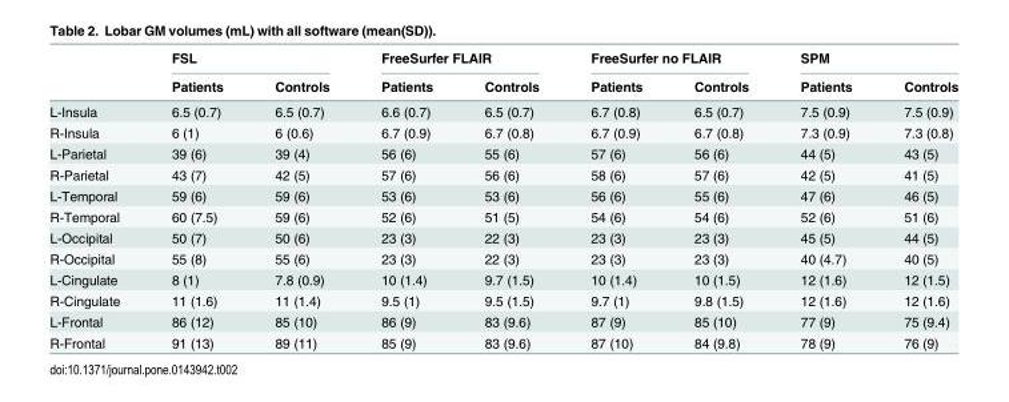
<table><thead><tr><td rowspan="2"></td><td colspan="2">FSL</td><td colspan="2">FreeSurfer FLAIR</td><td colspan="2">FreeSurfer no FLAIR</td><td colspan="2">SPM</td></tr><tr><td>Patients</td><td>Controls</td><td>Patients</td><td>Controls</td><td>Patients</td><td>Controls</td><td>Patients</td><td>Controls</td></tr></thead><tbody><tr><td>L-Insula</td><td>6.5 (0.7)</td><td>6.5 (0.7)</td><td>6.6 (0.7)</td><td>6.5 (0.7)</td><td>6.7 (0.8)</td><td>6.5 (0.7)</td><td>7.5 (0.9)</td><td>7.5 (0.9)</td></tr><tr><td>R-Insula</td><td>6 (1)</td><td>6 (0.6)</td><td>6.7 (0.9)</td><td>6.7 (0.8)</td><td>6.7 (0.9)</td><td>6.7 (0.8)</td><td>7.3 (0.9)</td><td>7.3 (0.8)</td></tr><tr><td>L-Parietal</td><td>39 (6)</td><td>39 (4)</td><td>56 (6)</td><td>55 (6)</td><td>57 (6)</td><td>56 (6)</td><td>44 (5)</td><td>43 (5)</td></tr><tr><td>R-Parietal</td><td>43 (7)</td><td>42 (5)</td><td>57 (6)</td><td>56 (6)</td><td>58 (6)</td><td>57 (6)</td><td>42 (5)</td><td>41 (5)</td></tr><tr><td>L-Temporal</td><td>59 (6)</td><td>59 (6)</td><td>53 (6)</td><td>53 (6)</td><td>56 (6)</td><td>55 (6)</td><td>47 (6)</td><td>46 (5)</td></tr><tr><td>R-Temporal</td><td>60 (7.5)</td><td>59 (6)</td><td>52 (6)</td><td>51 (5)</td><td>54 (6)</td><td>54 (6)</td><td>52 (6)</td><td>51 (6)</td></tr><tr><td>L-Occipital</td><td>50 (7)</td><td>50 (6)</td><td>23 (3)</td><td>22 (3)</td><td>23 (3)</td><td>23 (3)</td><td>45 (5)</td><td>44 (5)</td></tr><tr><td>R-Occipital</td><td>55 (8)</td><td>55 (6)</td><td>23 (3)</td><td>22 (3)</td><td>23 (3)</td><td>23 (3)</td><td>40 (4.7)</td><td>40 (5)</td></tr><tr><td>L-Cingulate</td><td>8 (1)</td><td>7.8 (0.9)</td><td>10 (1.4)</td><td>9.7 (1.5)</td><td>10 (1.4)</td><td>10 (1.5)</td><td>12 (1.6)</td><td>12 (1.5)</td></tr><tr><td>R-Cingulate</td><td>11 (1.6)</td><td>11 (1.4)</td><td>9.5 (1)</td><td>9.5 (1.5)</td><td>9.7 (1)</td><td>9.8 (1.5)</td><td>12 (1.6)</td><td>12 (1.6)</td></tr><tr><td>L-Frontal</td><td>86 (12)</td><td>85 (10)</td><td>86 (9)</td><td>83 (9.6)</td><td>87 (9)</td><td>85 (10)</td><td>77 (9)</td><td>75 (9.4)</td></tr><tr><td>R-Frontal</td><td>91 (13)</td><td>89 (11)</td><td>85 (9)</td><td>83 (9.6)</td><td>87 (10)</td><td>84 (9.8)</td><td>78 (9)</td><td>76 (9)</td></tr></tbody></table>